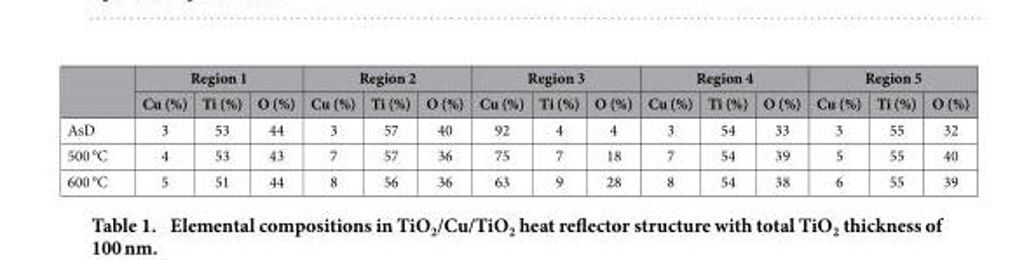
<table><thead><tr><td rowspan="2"></td><td colspan="3">Region 1</td><td colspan="3">Region 2</td><td colspan="3">Region 3</td><td colspan="3">Region 4</td><td colspan="3">Region 5</td></tr><tr><td>Cu (%)</td><td>Ti (%)</td><td>O (%)</td><td>Cu (%)</td><td>Ti (%)</td><td>O (%)</td><td>Cu (%)</td><td>Ti (%)</td><td>O (%)</td><td>Cu (%)</td><td>Ti (%)</td><td>O (%)</td><td>Cu (%)</td><td>Ti (%)</td><td>O (%)</td></tr></thead><tbody><tr><td>AsD</td><td>3</td><td>53</td><td>44</td><td>3</td><td>57</td><td>40</td><td>92</td><td>4</td><td>4</td><td>3</td><td>54</td><td>33</td><td>3</td><td>55</td><td>32</td></tr><tr><td>500 °C</td><td>4</td><td>53</td><td>43</td><td>7</td><td>57</td><td>36</td><td>75</td><td>7</td><td>18</td><td>7</td><td>54</td><td>39</td><td>5</td><td>55</td><td>40</td></tr><tr><td>600 °C</td><td>5</td><td>51</td><td>44</td><td>8</td><td>56</td><td>36</td><td>63</td><td>9</td><td>28</td><td>8</td><td>54</td><td>38</td><td>6</td><td>55</td><td>39</td></tr></tbody></table>